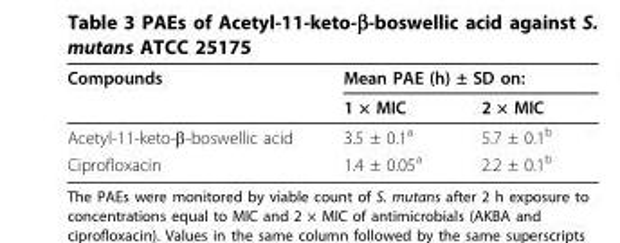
<table><thead><tr><td rowspan="2">Compounds</td><td colspan="2">Mean PAE (h) ± SD on:</td></tr><tr><td>1 × MIC</td><td>2 × MIC</td></tr></thead><tbody><tr><td>Acetyl-11-keto-β-boswellic acid</td><td>3.5 ± 0.1<sup>a</sup></td><td>5.7 ± 0.1<sup>b</sup></td></tr><tr><td>Ciprofloxacin</td><td>1.4 ± 0.05<sup>a</sup></td><td>2.2 ± 0.1<sup>b</sup></td></tr></tbody></table>